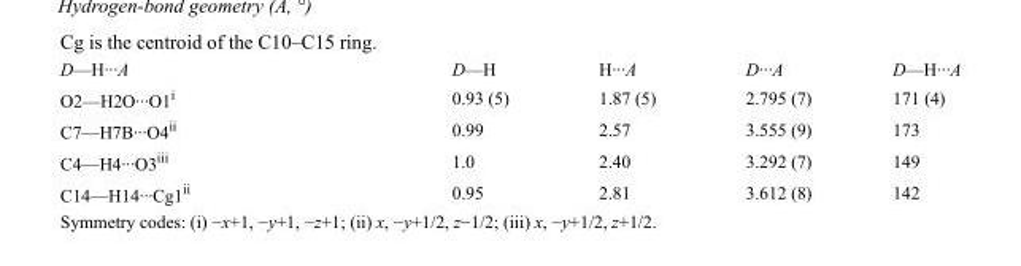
<table><tbody><tr><td>D—H···A</td><td>D—H</td><td>H···A</td><td>D···A</td><td>D—H···A</td></tr><tr><td>O2—H2O···O1<sup>i</sup></td><td>0.93 (5)</td><td>1.87 (5)</td><td>2.795 (7)</td><td>171 (4)</td></tr><tr><td>C7—H7B···O4<sup>ii</sup></td><td>0.99</td><td>2.57</td><td>3.555 (9)</td><td>173</td></tr><tr><td>C4—H4···O3<sup>iii</sup></td><td>1.0</td><td>2.40</td><td>3.292 (7)</td><td>149</td></tr><tr><td>C14—H14···Cg1<sup>ii</sup></td><td>0.95</td><td>2.81</td><td>3.612 (8)</td><td>142</td></tr></tbody></table>